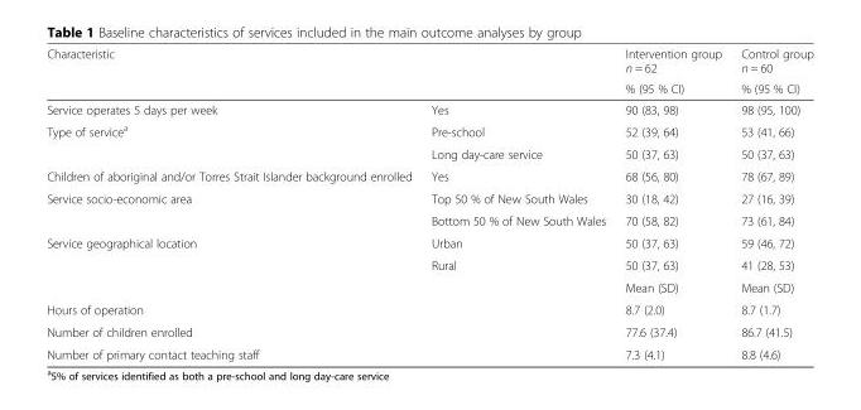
<table><thead><tr><td rowspan="2" colspan="2">Characteristic</td><td rowspan="3">Intervention group n = 62 % (95 % CI) 90 (83, 98)</td><td rowspan="3">Control group n = 60 % (95 % CI) 98 (95, 100)</td></tr><tr></tr><tr><td>Service operates 5 days per week</td><td>Yes</td></tr></thead><tbody><tr><td rowspan="2">Type of service<sup>a</sup></td><td>Pre-school</td><td>52 (39, 64)</td><td>53 (41, 66)</td></tr><tr><td>Long day-care service</td><td>50 (37, 63)</td><td>50 (37, 63)</td></tr><tr><td>Children of aboriginal and/or Torres Strait Islander background enrolled</td><td>Yes</td><td>68 (56, 80)</td><td>78 (67, 89)</td></tr><tr><td rowspan="2">Service socio-economic area</td><td>Top 50 % of New South Wales</td><td>30 (18, 42)</td><td>27 (16, 39)</td></tr><tr><td>Bottom 50 % of New South Wales</td><td>70 (58, 82)</td><td>73 (61, 84)</td></tr><tr><td rowspan="2">Service geographical location</td><td>Urban</td><td>50 (37, 63)</td><td>59 (46, 72)</td></tr><tr><td>Rural</td><td>50 (37, 63)</td><td>41 (28, 53)</td></tr><tr><td colspan="2"></td><td>Mean (SD)</td><td>Mean (SD)</td></tr><tr><td colspan="2">Hours of operation</td><td>8.7 (2.0)</td><td>8.7 (1.7)</td></tr><tr><td colspan="2">Number of children enrolled</td><td>77.6 (37.4)</td><td>86.7 (41.5)</td></tr><tr><td colspan="2">Number of primary contact teaching staff</td><td>7.3 (4.1)</td><td>8.8 (4.6)</td></tr></tbody></table>